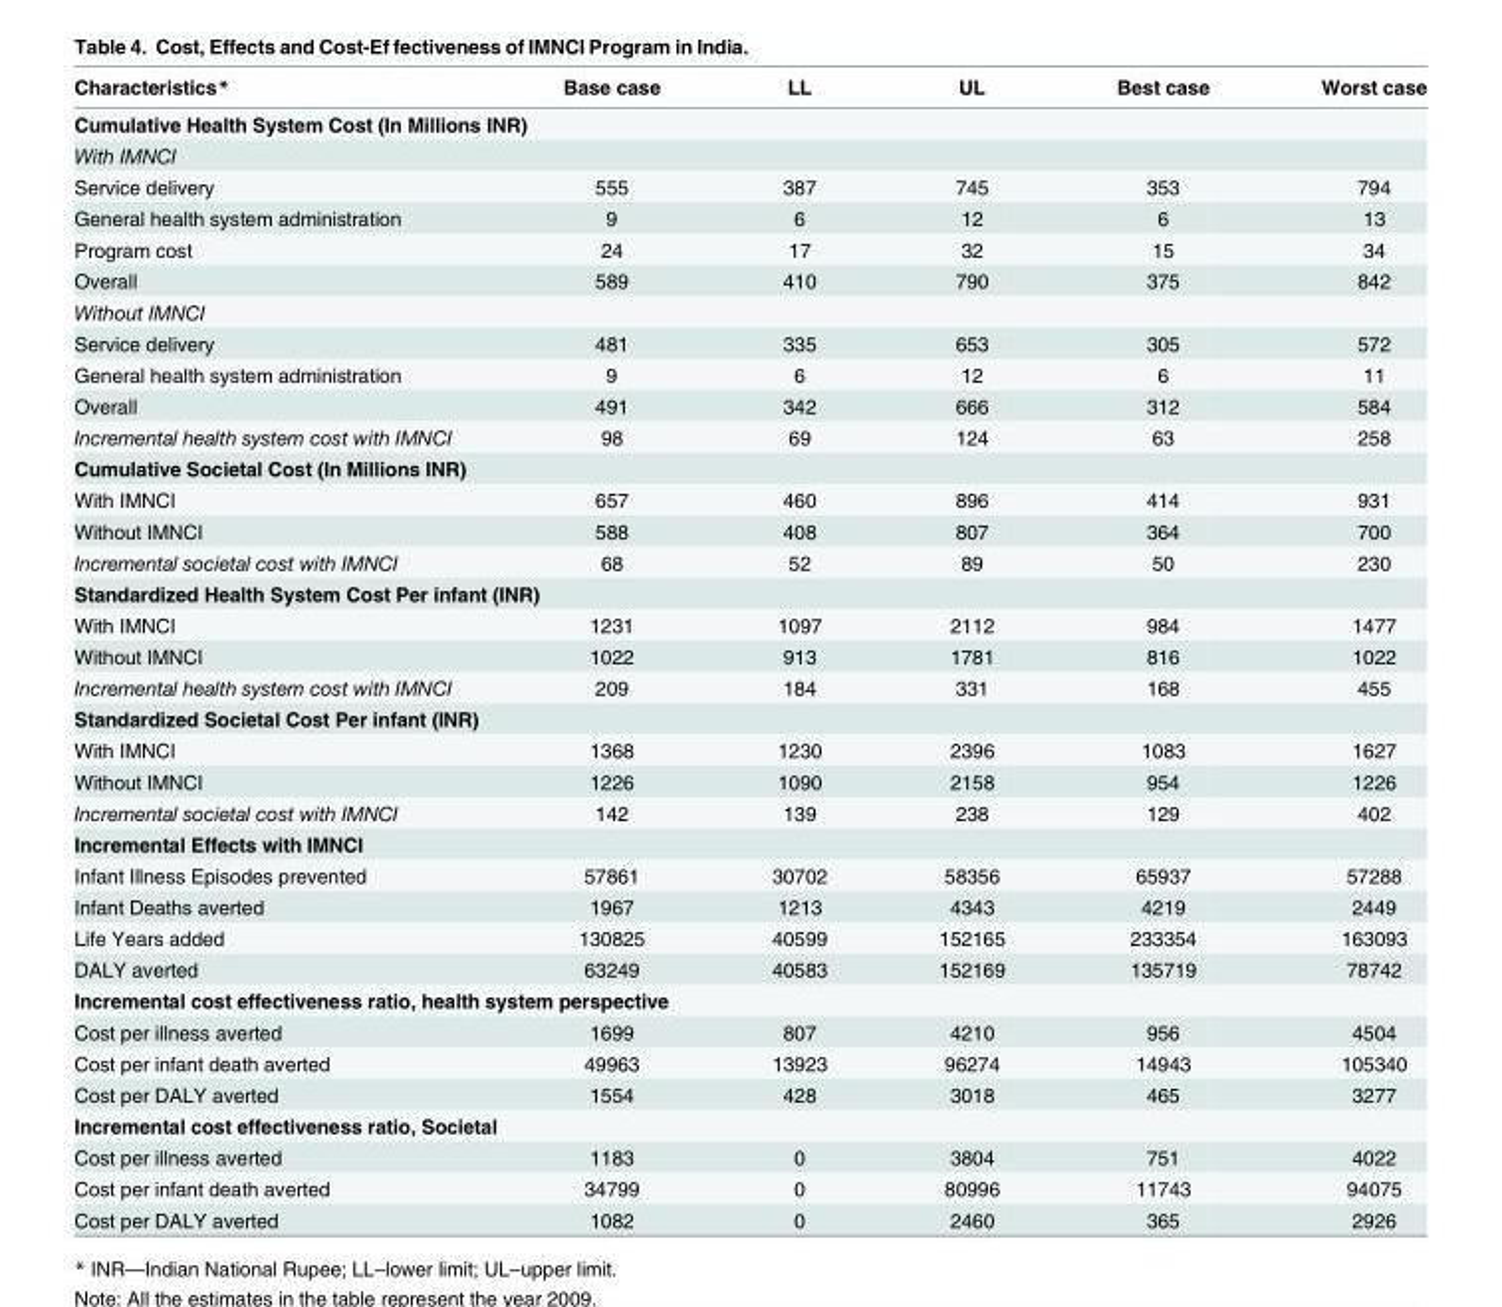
<table><thead><tr><td>Characteristics*</td><td>Base case</td><td>LL</td><td>UL</td><td>Best case</td><td>Worst case</td></tr></thead><tbody><tr><td colspan="6">Cumulative Health System Cost (In Millions INR)</td></tr><tr><td colspan="6">With IMNCI</td></tr><tr><td>Service delivery</td><td>555</td><td>387</td><td>745</td><td>353</td><td>794</td></tr><tr><td>General health system administration</td><td>9</td><td>6</td><td>12</td><td>6</td><td>13</td></tr><tr><td>Program cost</td><td>24</td><td>17</td><td>32</td><td>15</td><td>34</td></tr><tr><td>Overall</td><td>589</td><td>410</td><td>790</td><td>375</td><td>842</td></tr><tr><td colspan="6">Without IMNCI</td></tr><tr><td>Service delivery</td><td>481</td><td>335</td><td>653</td><td>305</td><td>572</td></tr><tr><td>General health system administration</td><td>9</td><td>6</td><td>12</td><td>6</td><td>11</td></tr><tr><td>Overall</td><td>491</td><td>342</td><td>666</td><td>312</td><td>584</td></tr><tr><td>Incremental health system cost with IMNCI</td><td>98</td><td>69</td><td>124</td><td>63</td><td>258</td></tr><tr><td colspan="6">Cumulative Societal Cost (In Millions INR)</td></tr><tr><td>With IMNCI</td><td>657</td><td>460</td><td>896</td><td>414</td><td>931</td></tr><tr><td>Without IMNCI</td><td>588</td><td>408</td><td>807</td><td>364</td><td>700</td></tr><tr><td>Incremental societal cost with IMNCI</td><td>68</td><td>52</td><td>89</td><td>50</td><td>230</td></tr><tr><td colspan="6">Standardized Health System Cost Per infant (INR)</td></tr><tr><td>With IMNCI</td><td>1231</td><td>1097</td><td>2112</td><td>984</td><td>1477</td></tr><tr><td>Without IMNCI</td><td>1022</td><td>913</td><td>1781</td><td>816</td><td>1022</td></tr><tr><td>Incremental health system cost with IMNCI</td><td>209</td><td>184</td><td>331</td><td>168</td><td>455</td></tr><tr><td colspan="6">Standardized Societal Cost Per infant (INR)</td></tr><tr><td>With IMNCI</td><td>1368</td><td>1230</td><td>2396</td><td>1083</td><td>1627</td></tr><tr><td>Without IMNCI</td><td>1226</td><td>1090</td><td>2158</td><td>954</td><td>1226</td></tr><tr><td>Incremental societal cost with IMNCI</td><td>142</td><td>139</td><td>238</td><td>129</td><td>402</td></tr><tr><td colspan="6">Incremental Effects with IMNCI</td></tr><tr><td>Infant Illness Episodes prevented</td><td>57861</td><td>30702</td><td>58356</td><td>65937</td><td>57288</td></tr><tr><td>Infant Deaths averted</td><td>1967</td><td>1213</td><td>4343</td><td>4219</td><td>2449</td></tr><tr><td>Life Years added</td><td>130825</td><td>40599</td><td>152165</td><td>233354</td><td>163093</td></tr><tr><td>DALY averted</td><td>63249</td><td>40583</td><td>152169</td><td>135719</td><td>78742</td></tr><tr><td colspan="6">Incremental cost effectiveness ratio, health system perspective</td></tr><tr><td>Cost per illness averted</td><td>1699</td><td>807</td><td>4210</td><td>956</td><td>4504</td></tr><tr><td>Cost per infant death averted</td><td>49963</td><td>13923</td><td>96274</td><td>14943</td><td>105340</td></tr><tr><td>Cost per DALY averted</td><td>1554</td><td>428</td><td>3018</td><td>465</td><td>3277</td></tr><tr><td colspan="6">Incremental cost effectiveness ratio, Societal</td></tr><tr><td>Cost per illness averted</td><td>1183</td><td>0</td><td>3804</td><td>751</td><td>4022</td></tr><tr><td>Cost per infant death averted</td><td>34799</td><td>0</td><td>80996</td><td>11743</td><td>94075</td></tr><tr><td>Cost per DALY averted</td><td>1082</td><td>0</td><td>2460</td><td>365</td><td>2926</td></tr></tbody></table>